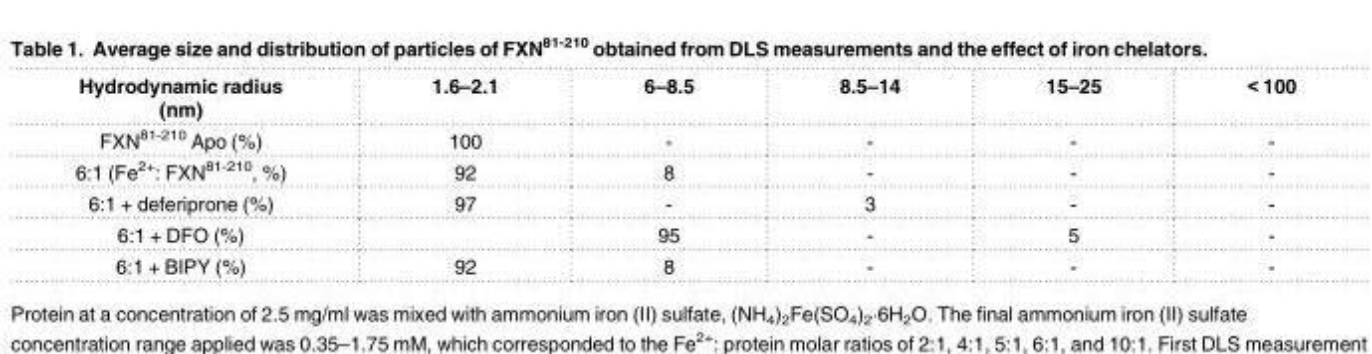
<table><thead><tr><td>Hydrodynamic radius (nm)</td><td>1.6–2.1</td><td>6–8.5</td><td>8.5–14</td><td>15–25</td><td>&lt; 100</td></tr></thead><tbody><tr><td>FXN<sup>81-210</sup> Apo (%)</td><td>100</td><td>-</td><td>-</td><td>-</td><td>-</td></tr><tr><td>6:1 (Fe<sup>2+</sup>: FXN<sup>81-210</sup>, %)</td><td>92</td><td>8</td><td>-</td><td>-</td><td>-</td></tr><tr><td>6:1 + deferiprone (%)</td><td>97</td><td>-</td><td>3</td><td>-</td><td>-</td></tr><tr><td>6:1 + DFO (%)</td><td></td><td>95</td><td>-</td><td>5</td><td>-</td></tr><tr><td>6:1 + BIPY (%)</td><td>92</td><td>8</td><td>-</td><td>-</td><td>-</td></tr></tbody></table>